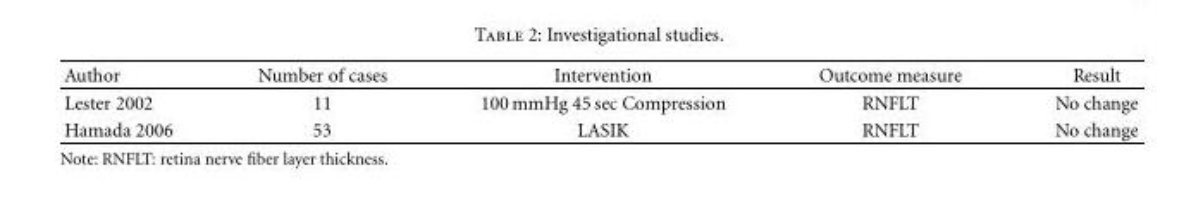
<table><thead><tr><td>Author</td><td>Number of cases</td><td>Intervention</td><td>Outcome measure</td><td>Result</td></tr></thead><tbody><tr><td>Lester 2002</td><td>11</td><td>100 mmHg 45 sec Compression</td><td>RNFLT</td><td>No change</td></tr><tr><td>Hamada 2006</td><td>53</td><td>LASIK</td><td>RNFLT</td><td>No change</td></tr></tbody></table>